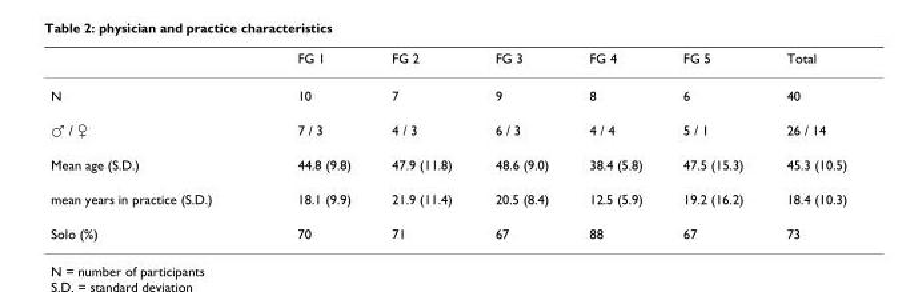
<table><thead><tr><td></td><td>FG 1</td><td>FG 2</td><td>FG 3</td><td>FG 4</td><td>FG 5</td><td>Total</td></tr></thead><tbody><tr><td>N</td><td>10</td><td>7</td><td>9</td><td>8</td><td>6</td><td>40</td></tr><tr><td>♂ / ♀</td><td>7 / 3</td><td>4 / 3</td><td>6 / 3</td><td>4 / 4</td><td>5 / 1</td><td>26 / 14</td></tr><tr><td>Mean age (S.D.)</td><td>44.8 (9.8)</td><td>47.9 (11.8)</td><td>48.6 (9.0)</td><td>38.4 (5.8)</td><td>47.5 (15.3)</td><td>45.3 (10.5)</td></tr><tr><td>mean years in practice (S.D.)</td><td>18.1 (9.9)</td><td>21.9 (11.4)</td><td>20.5 (8.4)</td><td>12.5 (5.9)</td><td>19.2 (16.2)</td><td>18.4 (10.3)</td></tr><tr><td>Solo (%)</td><td>70</td><td>71</td><td>67</td><td>88</td><td>67</td><td>73</td></tr></tbody></table>